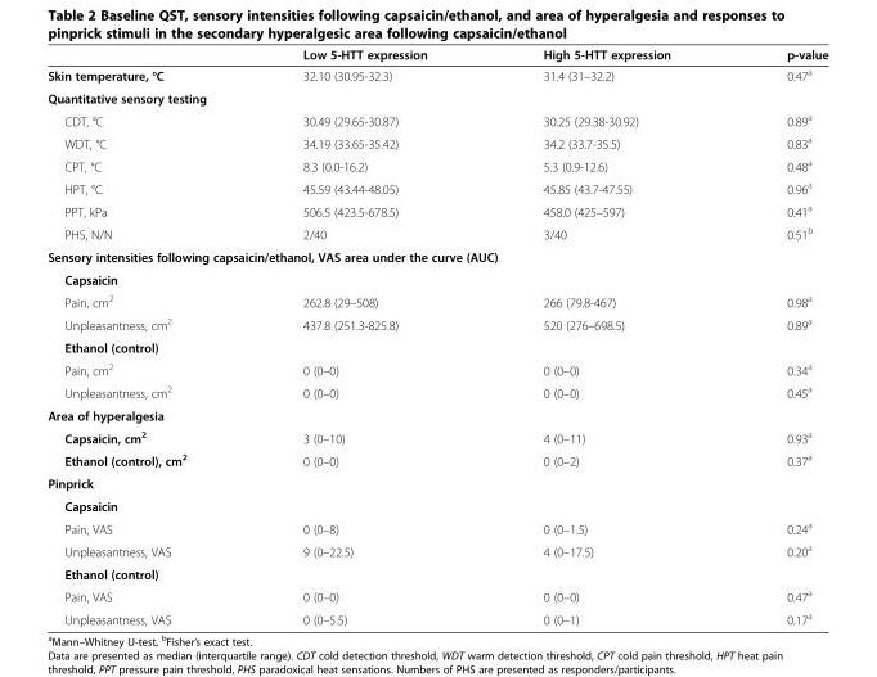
<table><thead><tr><td></td><td>Low 5-HTT expression</td><td>High 5-HTT expression</td><td>p-value</td></tr></thead><tbody><tr><td>Skin temperature, °C</td><td>32.10 (30.95-32.3)</td><td>31.4 (31–32.2)</td><td>0.47<sup>a</sup></td></tr><tr><td colspan="4">Quantitative sensory testing</td></tr><tr><td>CDT, °C</td><td>30.49 (29.65-30.87)</td><td>30.25 (29.38-30.92)</td><td>0.89<sup>a</sup></td></tr><tr><td>WDT, °C</td><td>34.19 (33.65-35.42)</td><td>34.2 (33.7-35.5)</td><td>0.83<sup>a</sup></td></tr><tr><td>CPT, °C</td><td>8.3 (0.0-16.2)</td><td>5.3 (0.9-12.6)</td><td>0.48<sup>a</sup></td></tr><tr><td>HPT, °C</td><td>45.59 (43.44-48.05)</td><td>45.85 (43.7-47.55)</td><td>0.96<sup>a</sup></td></tr><tr><td>PPT, kPa</td><td>506.5 (423.5-678.5)</td><td>458.0 (425–597)</td><td>0.41<sup>a</sup></td></tr><tr><td>PHS, N/N</td><td>2/40</td><td>3/40</td><td>0.51<sup>b</sup></td></tr><tr><td colspan="4">Sensory intensities following capsaicin/ethanol, VAS area under the curve (AUC)</td></tr><tr><td colspan="4">Capsaicin</td></tr><tr><td>Pain, cm<sup>2</sup></td><td>262.8 (29–508)</td><td>266 (79.8-467)</td><td>0.98<sup>a</sup></td></tr><tr><td>Unpleasantness, cm<sup>2</sup></td><td>437.8 (251.3-825.8)</td><td>520 (276–698.5)</td><td>0.89<sup>a</sup></td></tr><tr><td colspan="4">Ethanol (control)</td></tr><tr><td>Pain, cm<sup>2</sup></td><td>0 (0–0)</td><td>0 (0–0)</td><td>0.34<sup>a</sup></td></tr><tr><td>Unpleasantness, cm<sup>2</sup></td><td>0 (0–0)</td><td>0 (0–0)</td><td>0.45<sup>a</sup></td></tr><tr><td colspan="4">Area of hyperalgesia</td></tr><tr><td>Capsaicin, cm<sup>2</sup></td><td>3 (0–10)</td><td>4 (0–11)</td><td>0.93<sup>a</sup></td></tr><tr><td>Ethanol (control), cm<sup>2</sup></td><td>0 (0–0)</td><td>0 (0–2)</td><td>0.37<sup>a</sup></td></tr><tr><td colspan="4">Pinprick</td></tr><tr><td colspan="4">Capsaicin</td></tr><tr><td>Pain, VAS</td><td>0 (0–8)</td><td>0 (0–1.5)</td><td>0.24<sup>a</sup></td></tr><tr><td>Unpleasantness, VAS</td><td>9 (0–22.5)</td><td>4 (0–17.5)</td><td>0.20<sup>a</sup></td></tr><tr><td colspan="4">Ethanol (control)</td></tr><tr><td>Pain, VAS</td><td>0 (0–0)</td><td>0 (0–0)</td><td>0.47<sup>a</sup></td></tr><tr><td>Unpleasantness, VAS</td><td>0 (0–5.5)</td><td>0 (0–1)</td><td>0.17<sup>a</sup></td></tr></tbody></table>